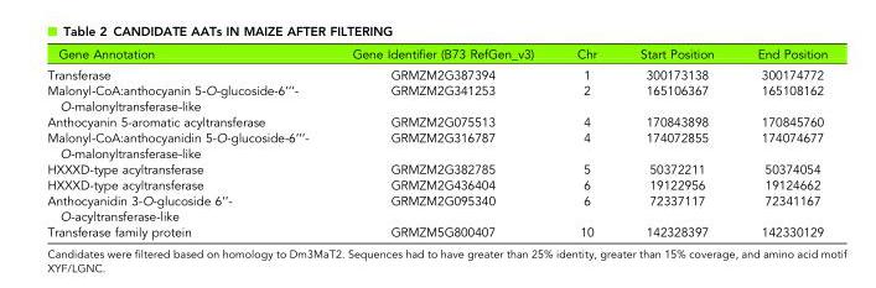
<table><thead><tr><td>Gene Annotation</td><td>Gene Identifier (B73 RefGen_v3)</td><td>Chr</td><td>Start Position</td><td>End Position</td></tr></thead><tbody><tr><td>Transferase</td><td>GRMZM2G387394</td><td>1</td><td>300173138</td><td>300174772</td></tr><tr><td>Malonyl-CoA:anthocyanin 5-O-glucoside-6’’’- O-malonyltransferase-like</td><td>GRMZM2G341253</td><td>2</td><td>165106367</td><td>165108162</td></tr><tr><td>Anthocyanin 5-aromatic acyltransferase</td><td>GRMZM2G075513</td><td>4</td><td>170843898</td><td>170845760</td></tr><tr><td>Malonyl-CoA:anthocyanidin 5-O-glucoside-6’’’- O-malonyltransferase-like</td><td>GRMZM2G316787</td><td>4</td><td>174072855</td><td>174074677</td></tr><tr><td>HXXXD-type acyltransferase</td><td>GRMZM2G382785</td><td>5</td><td>50372211</td><td>50374054</td></tr><tr><td>HXXXD-type acyltransferase</td><td>GRMZM2G436404</td><td>6</td><td>19122956</td><td>19124662</td></tr><tr><td>Anthocyanidin 3-O-glucoside 6’’- O-acyltransferase-like</td><td>GRMZM2G095340</td><td>6</td><td>72337117</td><td>72341167</td></tr><tr><td>Transferase family protein</td><td>GRMZM5G800407</td><td>10</td><td>142328397</td><td>142330129</td></tr></tbody></table>